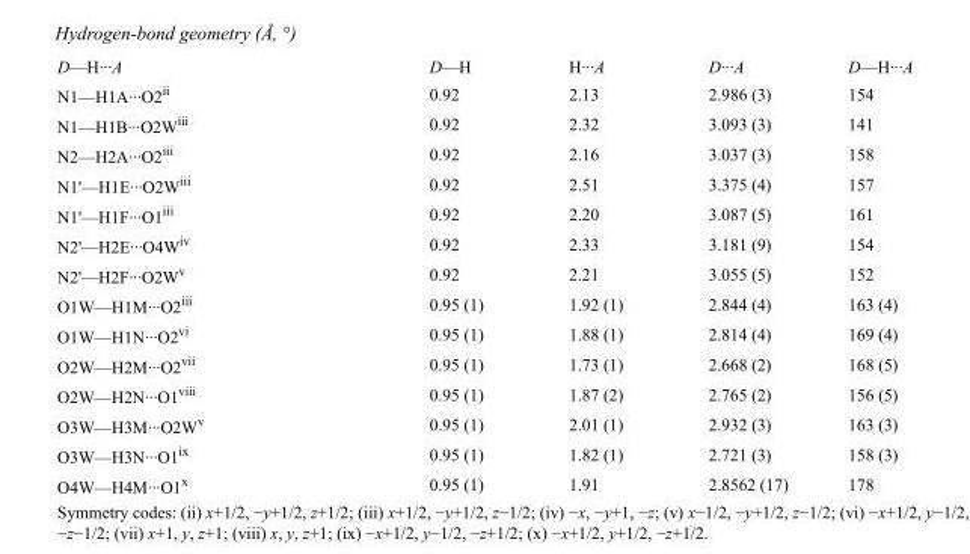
<table><tbody><tr><td>D—H···A</td><td>D—H</td><td>H···A</td><td>D···A</td><td>D—H···A</td></tr><tr><td>N1—H1A···O2<sup>ii</sup></td><td>0.92</td><td>2.13</td><td>2.986 (3)</td><td>154</td></tr><tr><td>N1—H1B···O2W<sup>iii</sup></td><td>0.92</td><td>2.32</td><td>3.093 (3)</td><td>141</td></tr><tr><td>N2—H2A···O2<sup>iii</sup></td><td>0.92</td><td>2.16</td><td>3.037 (3)</td><td>158</td></tr><tr><td>N1&#x27;—H1E···O2W<sup>iii</sup></td><td>0.92</td><td>2.51</td><td>3.375 (4)</td><td>157</td></tr><tr><td>N1&#x27;—H1F···O1<sup>iii</sup></td><td>0.92</td><td>2.20</td><td>3.087 (5)</td><td>161</td></tr><tr><td>N2&#x27;—H2E···O4W<sup>iv</sup></td><td>0.92</td><td>2.33</td><td>3.181 (9)</td><td>154</td></tr><tr><td>N2&#x27;—H2F···O2W<sup>v</sup></td><td>0.92</td><td>2.21</td><td>3.055 (5)</td><td>152</td></tr><tr><td>O1W—H1M···O2<sup>iii</sup></td><td>0.95 (1)</td><td>1.92 (1)</td><td>2.844 (4)</td><td>163 (4)</td></tr><tr><td>O1W—H1N···O2<sup>vi</sup></td><td>0.95 (1)</td><td>1.88 (1)</td><td>2.814 (4)</td><td>169 (4)</td></tr><tr><td>O2W—H2M···O2<sup>vii</sup></td><td>0.95 (1)</td><td>1.73 (1)</td><td>2.668 (2)</td><td>168 (5)</td></tr><tr><td>O2W—H2N···O1<sup>viii</sup></td><td>0.95 (1)</td><td>1.87 (2)</td><td>2.765 (2)</td><td>156 (5)</td></tr><tr><td>O3W—H3M···O2W<sup>v</sup></td><td>0.95 (1)</td><td>2.01 (1)</td><td>2.932 (3)</td><td>163 (3)</td></tr><tr><td>O3W—H3N···O1<sup>ix</sup></td><td>0.95 (1)</td><td>1.82 (1)</td><td>2.721 (3)</td><td>158 (3)</td></tr><tr><td>O4W—H4M···O1<sup>x</sup></td><td>0.95 (1)</td><td>1.91</td><td>2.8562 (17)</td><td>178</td></tr></tbody></table>